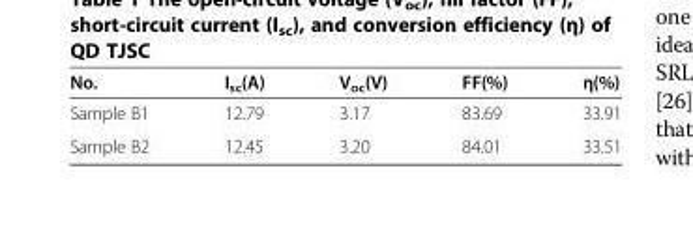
<table><thead><tr><td>No.</td><td>I<sub>sc</sub>(A)</td><td>V<sub>oc</sub>(V)</td><td>FF(%)</td><td>η(%)</td></tr></thead><tbody><tr><td>Sample B1</td><td>12.79</td><td>3.17</td><td>83.69</td><td>33.91</td></tr><tr><td>Sample B2</td><td>12.45</td><td>3.20</td><td>84.01</td><td>33.51</td></tr></tbody></table>